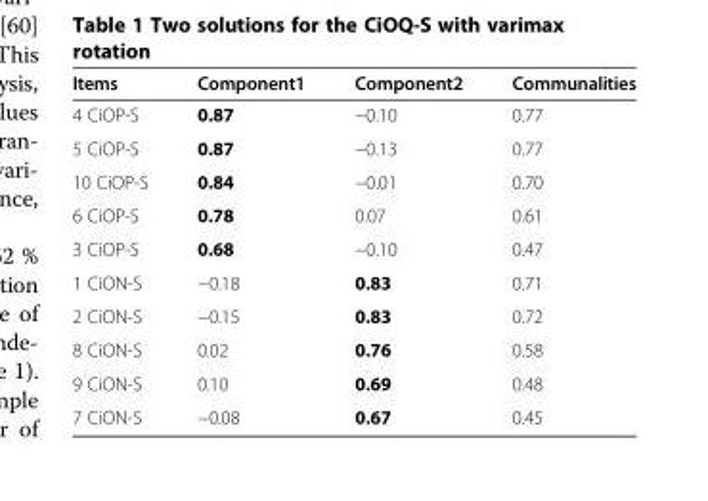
<table><thead><tr><td>Items</td><td>Component1</td><td>Component2</td><td>Communalities</td></tr></thead><tbody><tr><td>4 CiOP-S</td><td>0.87</td><td>−0.10</td><td>0.77</td></tr><tr><td>5 CiOP-S</td><td>0.87</td><td>−0.13</td><td>0.77</td></tr><tr><td>10 CiOP-S</td><td>0.84</td><td>−0.01</td><td>0.70</td></tr><tr><td>6 CiOP-S</td><td>0.78</td><td>0.07</td><td>0.61</td></tr><tr><td>3 CiOP-S</td><td>0.68</td><td>−0.10</td><td>0.47</td></tr><tr><td>1 CiON-S</td><td>−0.18</td><td>0.83</td><td>0.71</td></tr><tr><td>2 CiON-S</td><td>−0.15</td><td>0.83</td><td>0.72</td></tr><tr><td>8 CiON-S</td><td>0.02</td><td>0.76</td><td>0.58</td></tr><tr><td>9 CiON-S</td><td>0.10</td><td>0.69</td><td>0.48</td></tr><tr><td>7 CiON-S</td><td>−0.08</td><td>0.67</td><td>0.45</td></tr></tbody></table>